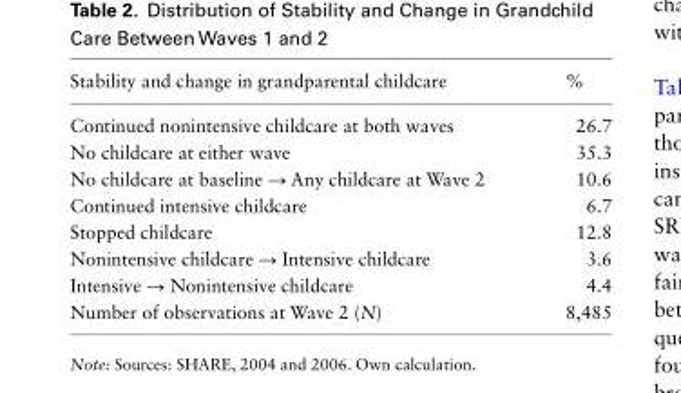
<table><thead><tr><td>Stability and change in grandparental childcare</td><td>%</td></tr></thead><tbody><tr><td>Continued nonintensive childcare at both waves</td><td>26.7</td></tr><tr><td>No childcare at either wave</td><td>35.3</td></tr><tr><td>No childcare at baseline → Any childcare at Wave 2</td><td>10.6</td></tr><tr><td>Continued intensive childcare</td><td>6.7</td></tr><tr><td>Stopped childcare</td><td>12.8</td></tr><tr><td>Nonintensive childcare → Intensive childcare</td><td>3.6</td></tr><tr><td>Intensive → Nonintensive childcare</td><td>4.4</td></tr><tr><td>Number of observations at Wave 2 (N)</td><td>8,485</td></tr></tbody></table>